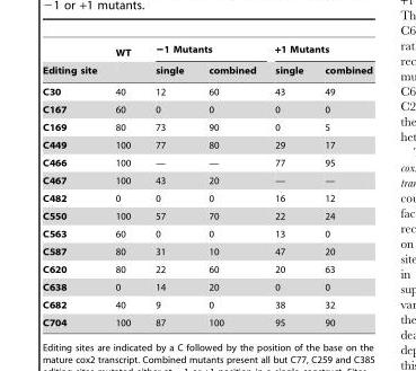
<table><thead><tr><td rowspan="2">Editing site</td><td rowspan="2">WT</td><td colspan="2">−1 Mutants</td><td colspan="2">+1 Mutants</td></tr><tr><td>single</td><td>combined</td><td>single</td><td>combined</td></tr></thead><tbody><tr><td>C30</td><td>40</td><td>12</td><td>60</td><td>43</td><td>49</td></tr><tr><td>C167</td><td>60</td><td>0</td><td>0</td><td>0</td><td>0</td></tr><tr><td>C169</td><td>80</td><td>73</td><td>90</td><td>0</td><td>5</td></tr><tr><td>C449</td><td>100</td><td>77</td><td>80</td><td>29</td><td>17</td></tr><tr><td>C466</td><td>100</td><td>—</td><td>—</td><td>77</td><td>95</td></tr><tr><td>C467</td><td>100</td><td>43</td><td>20</td><td>—</td><td>—</td></tr><tr><td>C482</td><td>0</td><td>0</td><td>0</td><td>16</td><td>12</td></tr><tr><td>C550</td><td>100</td><td>57</td><td>70</td><td>22</td><td>24</td></tr><tr><td>C563</td><td>60</td><td>0</td><td>0</td><td>13</td><td>0</td></tr><tr><td>C587</td><td>80</td><td>31</td><td>10</td><td>47</td><td>20</td></tr><tr><td>C620</td><td>80</td><td>22</td><td>60</td><td>20</td><td>63</td></tr><tr><td>C638</td><td>0</td><td>14</td><td>20</td><td>0</td><td>0</td></tr><tr><td>C682</td><td>40</td><td>9</td><td>0</td><td>38</td><td>32</td></tr><tr><td>C704</td><td>100</td><td>87</td><td>100</td><td>95</td><td>90</td></tr></tbody></table>